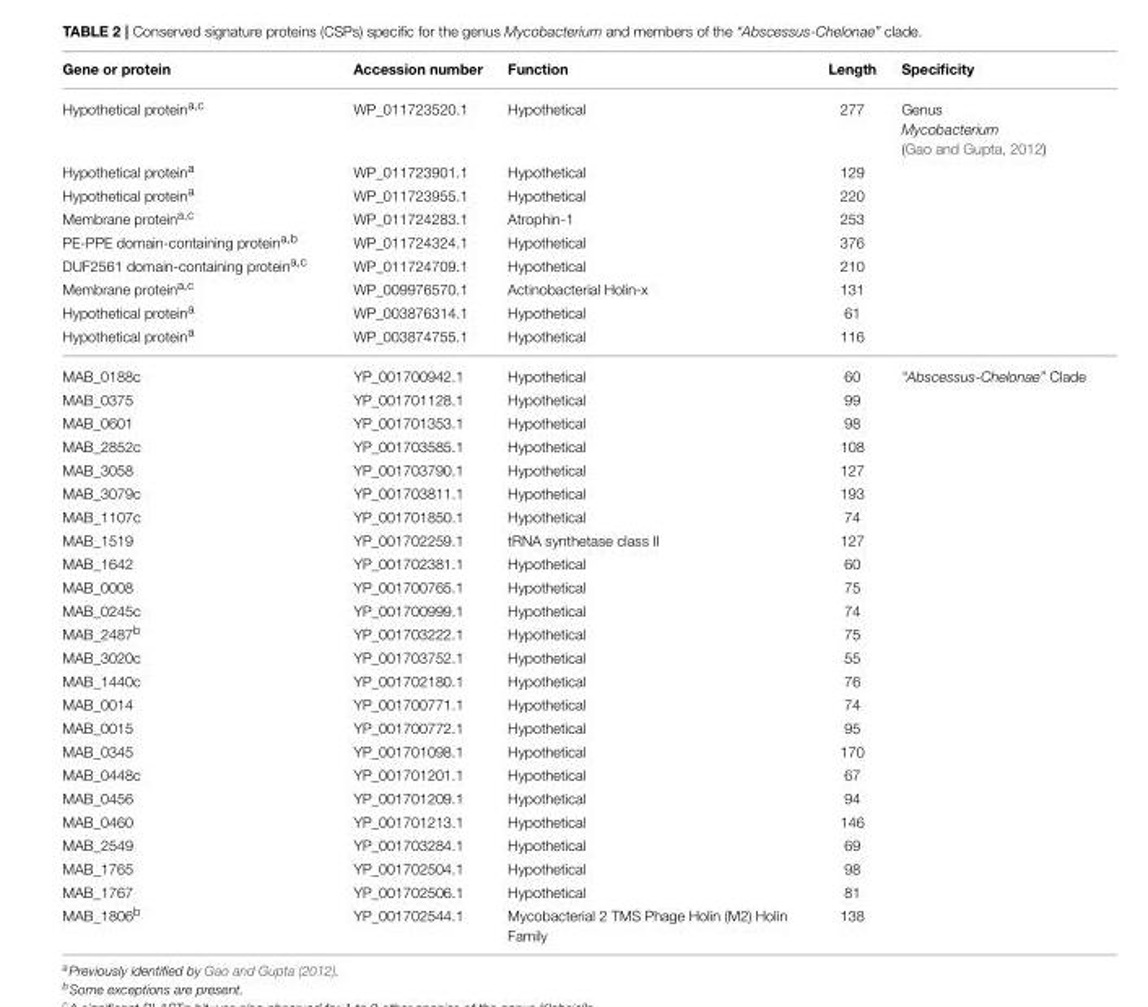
<table><thead><tr><td>Gene or protein</td><td>Accession number</td><td>Function</td><td>Length</td><td>Specificity</td></tr></thead><tbody><tr><td>Hypothetical protein<sup>a,c</sup></td><td>WP_011723520.1</td><td>Hypothetical</td><td>277</td><td>Genus Mycobacterium (Gao and Gupta, 2012)</td></tr><tr><td>Hypothetical protein<sup>a</sup></td><td>WP_011723901.1</td><td>Hypothetical</td><td>129</td><td></td></tr><tr><td>Hypothetical protein<sup>a</sup></td><td>WP_011723955.1</td><td>Hypothetical</td><td>220</td><td></td></tr><tr><td>Membrane protein<sup>a,c</sup></td><td>WP_011724283.1</td><td>Atrophin-1</td><td>253</td><td></td></tr><tr><td>PE-PPE domain-containing protein<sup>a,b</sup></td><td>WP_011724324.1</td><td>Hypothetical</td><td>376</td><td></td></tr><tr><td>DUF2561 domain-containing protein<sup>a,c</sup></td><td>WP_011724709.1</td><td>Hypothetical</td><td>210</td><td></td></tr><tr><td>Membrane protein<sup>a,c</sup></td><td>WP_009976570.1</td><td>Actinobacterial Holin-x</td><td>131</td><td></td></tr><tr><td>Hypothetical protein<sup>a</sup></td><td>WP_003876314.1</td><td>Hypothetical</td><td>61</td><td></td></tr><tr><td>Hypothetical protein<sup>a</sup></td><td>WP_003874755.1</td><td>Hypothetical</td><td>116</td><td></td></tr><tr><td>MAB_0188<sup>c</sup></td><td>YP_001700942.1</td><td>Hypothetical</td><td>60</td><td>“Abscessus-Chelonae” Clade</td></tr><tr><td>MAB_0375</td><td>YP_001701128.1</td><td>Hypothetical</td><td>99</td><td></td></tr><tr><td>MAB_0601</td><td>YP_001701353.1</td><td>Hypothetical</td><td>98</td><td></td></tr><tr><td>MAB_2852<sup>c</sup></td><td>YP_001703585.1</td><td>Hypothetical</td><td>108</td><td></td></tr><tr><td>MAB_3058</td><td>YP_001703790.1</td><td>Hypothetical</td><td>127</td><td></td></tr><tr><td>MAB_3079<sup>c</sup></td><td>YP_001703811.1</td><td>Hypothetical</td><td>193</td><td></td></tr><tr><td>MAB_1107<sup>c</sup></td><td>YP_001701850.1</td><td>Hypothetical</td><td>74</td><td></td></tr><tr><td>MAB_1519</td><td>YP_001702259.1</td><td>tRNA synthetase class II</td><td>127</td><td></td></tr><tr><td>MAB_1642</td><td>YP_001702381.1</td><td>Hypothetical</td><td>60</td><td></td></tr><tr><td>MAB_0008</td><td>YP_001700765.1</td><td>Hypothetical</td><td>75</td><td></td></tr><tr><td>MAB_0245<sup>c</sup></td><td>YP_001700999.1</td><td>Hypothetical</td><td>74</td><td></td></tr><tr><td>MAB_2487<sup>b</sup></td><td>YP_001703222.1</td><td>Hypothetical</td><td>75</td><td></td></tr><tr><td>MAB_3020<sup>c</sup></td><td>YP_001703752.1</td><td>Hypothetical</td><td>55</td><td></td></tr><tr><td>MAB_1440<sup>c</sup></td><td>YP_001702180.1</td><td>Hypothetical</td><td>76</td><td></td></tr><tr><td>MAB_0014</td><td>YP_001700771.1</td><td>Hypothetical</td><td>74</td><td></td></tr><tr><td>MAB_0015</td><td>YP_001700772.1</td><td>Hypothetical</td><td>95</td><td></td></tr><tr><td>MAB_0345</td><td>YP_001701098.1</td><td>Hypothetical</td><td>170</td><td></td></tr><tr><td>MAB_0448<sup>c</sup></td><td>YP_001701201.1</td><td>Hypothetical</td><td>67</td><td></td></tr><tr><td>MAB_0456</td><td>YP_001701209.1</td><td>Hypothetical</td><td>94</td><td></td></tr><tr><td>MAB_0460</td><td>YP_001701213.1</td><td>Hypothetical</td><td>146</td><td></td></tr><tr><td>MAB_2549</td><td>YP_001703284.1</td><td>Hypothetical</td><td>69</td><td></td></tr><tr><td>MAB_1765</td><td>YP_001702504.1</td><td>Hypothetical</td><td>98</td><td></td></tr><tr><td>MAB_1767</td><td>YP_001702506.1</td><td>Hypothetical</td><td>81</td><td></td></tr><tr><td>MAB_1806<sup>b</sup></td><td>YP_001702544.1</td><td>Mycobacterial 2 TMS Phage Holin (M2) Holin Family</td><td>138</td><td></td></tr></tbody></table>